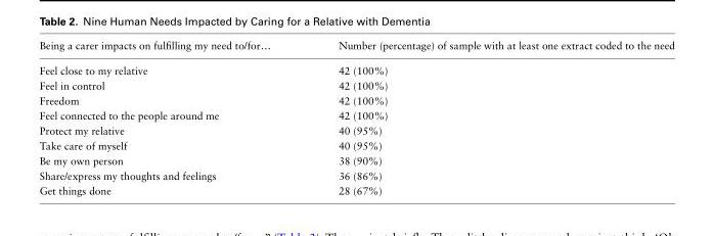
<table><thead><tr><td>Being a carer impacts on fulfilling my need to/for…</td><td>Number (percentage) of sample with at least one extract coded to the need</td></tr></thead><tbody><tr><td>Feel close to my relative</td><td>42 (100%)</td></tr><tr><td>Feel in control</td><td>42 (100%)</td></tr><tr><td>Freedom</td><td>42 (100%)</td></tr><tr><td>Feel connected to the people around me</td><td>42 (100%)</td></tr><tr><td>Protect my relative</td><td>40 (95%)</td></tr><tr><td>Take care of myself</td><td>40 (95%)</td></tr><tr><td>Be my own person</td><td>38 (90%)</td></tr><tr><td>Share/express my thoughts and feelings</td><td>36 (86%)</td></tr><tr><td>Get things done</td><td>28 (67%)</td></tr></tbody></table>